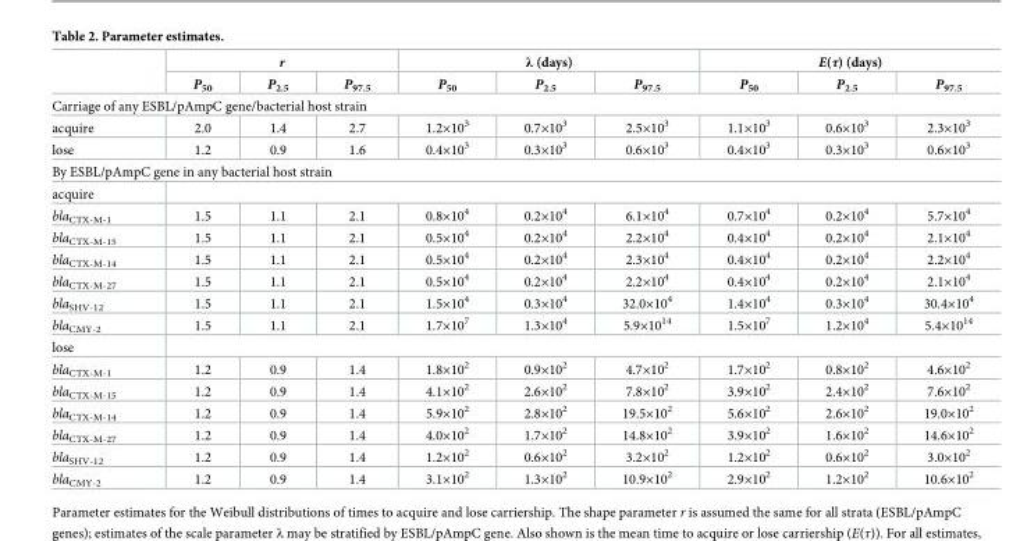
<table><thead><tr><td rowspan="2"></td><td colspan="3">r</td><td colspan="3">λ (days)</td><td colspan="3">E(τ) (days)</td></tr><tr><td>P<sub>50</sub></td><td>P<sub>2.5</sub></td><td>P<sub>97.5</sub></td><td>P<sub>50</sub></td><td>P<sub>2.5</sub></td><td>P<sub>97.5</sub></td><td>P<sub>50</sub></td><td>P<sub>2.5</sub></td><td>P<sub>97.5</sub></td></tr></thead><tbody><tr><td colspan="10">Carriage of any ESBL/pAmpC gene/bacterial host strain</td></tr><tr><td>acquire</td><td>2.0</td><td>1.4</td><td>2.7</td><td>1.2×10<sup>3</sup></td><td>0.7×10<sup>3</sup></td><td>2.5×10<sup>3</sup></td><td>1.1×10<sup>3</sup></td><td>0.6×10<sup>3</sup></td><td>2.3×10<sup>3</sup></td></tr><tr><td>lose</td><td>1.2</td><td>0.9</td><td>1.6</td><td>0.4×10<sup>3</sup></td><td>0.3×10<sup>3</sup></td><td>0.6×10<sup>3</sup></td><td>0.4×10<sup>3</sup></td><td>0.3×10<sup>3</sup></td><td>0.6×10<sup>3</sup></td></tr><tr><td colspan="10">By ESBL/pAmpC gene in any bacterial host strain</td></tr><tr><td colspan="10">acquire</td></tr><tr><td>bla<sub>CTX-M-1</sub></td><td>1.5</td><td>1.1</td><td>2.1</td><td>0.8×10<sup>4</sup></td><td>0.2×10<sup>4</sup></td><td>6.1×10<sup>4</sup></td><td>0.7×10<sup>4</sup></td><td>0.2×10<sup>4</sup></td><td>5.7×10<sup>4</sup></td></tr><tr><td>bla<sub>CTX-M-15</sub></td><td>1.5</td><td>1.1</td><td>2.1</td><td>0.5×10<sup>4</sup></td><td>0.2×10<sup>4</sup></td><td>2.2×10<sup>4</sup></td><td>0.4×10<sup>4</sup></td><td>0.2×10<sup>4</sup></td><td>2.1×10<sup>4</sup></td></tr><tr><td>bla<sub>CTX-M-14</sub></td><td>1.5</td><td>1.1</td><td>2.1</td><td>0.5×10<sup>4</sup></td><td>0.2×10<sup>4</sup></td><td>2.3×10<sup>4</sup></td><td>0.4×10<sup>4</sup></td><td>0.2×10<sup>4</sup></td><td>2.2×10<sup>4</sup></td></tr><tr><td>bla<sub>CTX-M-27</sub></td><td>1.5</td><td>1.1</td><td>2.1</td><td>0.5×10<sup>4</sup></td><td>0.2×10<sup>4</sup></td><td>2.2×10<sup>4</sup></td><td>0.4×10<sup>4</sup></td><td>0.2×10<sup>4</sup></td><td>2.1×10<sup>4</sup></td></tr><tr><td>bla<sub>SHV-12</sub></td><td>1.5</td><td>1.1</td><td>2.1</td><td>1.5×10<sup>4</sup></td><td>0.3×10<sup>4</sup></td><td>32.0×10<sup>4</sup></td><td>1.4×10<sup>4</sup></td><td>0.3×10<sup>4</sup></td><td>30.4×10<sup>4</sup></td></tr><tr><td>bla<sub>CMY-2</sub></td><td>1.5</td><td>1.1</td><td>2.1</td><td>1.7×10<sup>7</sup></td><td>1.3×10<sup>4</sup></td><td>5.9×10<sup>14</sup></td><td>1.5×10<sup>7</sup></td><td>1.2×10<sup>4</sup></td><td>5.4×10<sup>14</sup></td></tr><tr><td colspan="10">lose</td></tr><tr><td>bla<sub>CTX-M-1</sub></td><td>1.2</td><td>0.9</td><td>1.4</td><td>1.8×10<sup>2</sup></td><td>0.9×10<sup>2</sup></td><td>4.7×10<sup>2</sup></td><td>1.7×10<sup>2</sup></td><td>0.8×10<sup>2</sup></td><td>4.6×10<sup>2</sup></td></tr><tr><td>bla<sub>CTX-M-15</sub></td><td>1.2</td><td>0.9</td><td>1.4</td><td>4.1×10<sup>2</sup></td><td>2.6×10<sup>2</sup></td><td>7.8×10<sup>2</sup></td><td>3.9×10<sup>2</sup></td><td>2.4×10<sup>2</sup></td><td>7.6×10<sup>2</sup></td></tr><tr><td>bla<sub>CTX-M-14</sub></td><td>1.2</td><td>0.9</td><td>1.4</td><td>5.9×10<sup>2</sup></td><td>2.8×10<sup>2</sup></td><td>19.5×10<sup>2</sup></td><td>5.6×10<sup>2</sup></td><td>2.6×10<sup>2</sup></td><td>19.0×10<sup>2</sup></td></tr><tr><td>bla<sub>CTX-M-27</sub></td><td>1.2</td><td>0.9</td><td>1.4</td><td>4.0×10<sup>2</sup></td><td>1.7×10<sup>2</sup></td><td>14.8×10<sup>2</sup></td><td>3.9×10<sup>2</sup></td><td>1.6×10<sup>2</sup></td><td>14.6×10<sup>2</sup></td></tr><tr><td>bla<sub>SHV-12</sub></td><td>1.2</td><td>0.9</td><td>1.4</td><td>1.2×10<sup>2</sup></td><td>0.6×10<sup>2</sup></td><td>3.2×10<sup>2</sup></td><td>1.2×10<sup>2</sup></td><td>0.6×10<sup>2</sup></td><td>3.0×10<sup>2</sup></td></tr><tr><td>bla<sub>CMY-2</sub></td><td>1.2</td><td>0.9</td><td>1.4</td><td>3.1×10<sup>2</sup></td><td>1.3×10<sup>2</sup></td><td>10.9×10<sup>2</sup></td><td>2.9×10<sup>2</sup></td><td>1.2×10<sup>2</sup></td><td>10.6×10<sup>2</sup></td></tr></tbody></table>